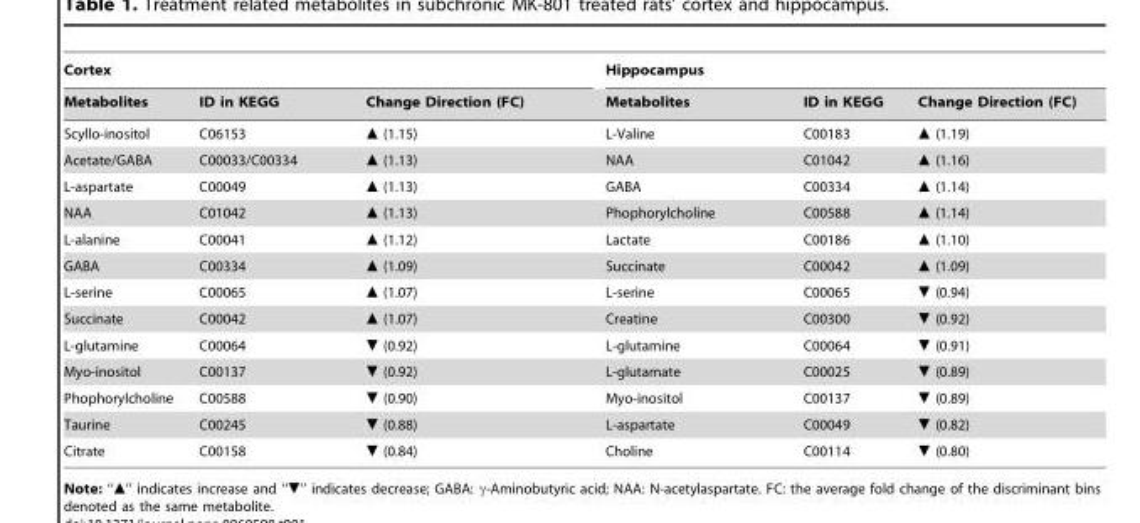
<table><thead><tr><td colspan="3">Cortex</td><td colspan="3">Hippocampus</td></tr><tr><td>Metabolites</td><td>ID in KEGG</td><td>Change Direction (FC)</td><td>Metabolites</td><td>ID in KEGG</td><td>Change Direction (FC)</td></tr></thead><tbody><tr><td>Scyllo-inositol</td><td>C06153</td><td>▴ (1.15)</td><td>L-Valine</td><td>C00183</td><td>▴ (1.19)</td></tr><tr><td>Acetate/GABA</td><td>C00033/C00334</td><td>▴ (1.13)</td><td>NAA</td><td>C01042</td><td>▴ (1.16)</td></tr><tr><td>L-aspartate</td><td>C00049</td><td>▴ (1.13)</td><td>GABA</td><td>C00334</td><td>▴ (1.14)</td></tr><tr><td>NAA</td><td>C01042</td><td>▴ (1.13)</td><td>Phophorylcholine</td><td>C00588</td><td>▴ (1.14)</td></tr><tr><td>L-alanine</td><td>C00041</td><td>▴ (1.12)</td><td>Lactate</td><td>C00186</td><td>▴ (1.10)</td></tr><tr><td>GABA</td><td>C00334</td><td>▴ (1.09)</td><td>Succinate</td><td>C00042</td><td>▴ (1.09)</td></tr><tr><td>L-serine</td><td>C00065</td><td>▴ (1.07)</td><td>L-serine</td><td>C00065</td><td>▾ (0.94)</td></tr><tr><td>Succinate</td><td>C00042</td><td>▴ (1.07)</td><td>Creatine</td><td>C00300</td><td>▾ (0.92)</td></tr><tr><td>L-glutamine</td><td>C00064</td><td>▾ (0.92)</td><td>L-glutamine</td><td>C00064</td><td>▾ (0.91)</td></tr><tr><td>Myo-inositol</td><td>C00137</td><td>▾ (0.92)</td><td>L-glutamate</td><td>C00025</td><td>▾ (0.89)</td></tr><tr><td>Phophorylcholine</td><td>C00588</td><td>▾ (0.90)</td><td>Myo-inositol</td><td>C00137</td><td>▾ (0.89)</td></tr><tr><td>Taurine</td><td>C00245</td><td>▾ (0.88)</td><td>L-aspartate</td><td>C00049</td><td>▾ (0.82)</td></tr><tr><td>Citrate</td><td>C00158</td><td>▾ (0.84)</td><td>Choline</td><td>C00114</td><td>▾ (0.80)</td></tr></tbody></table>